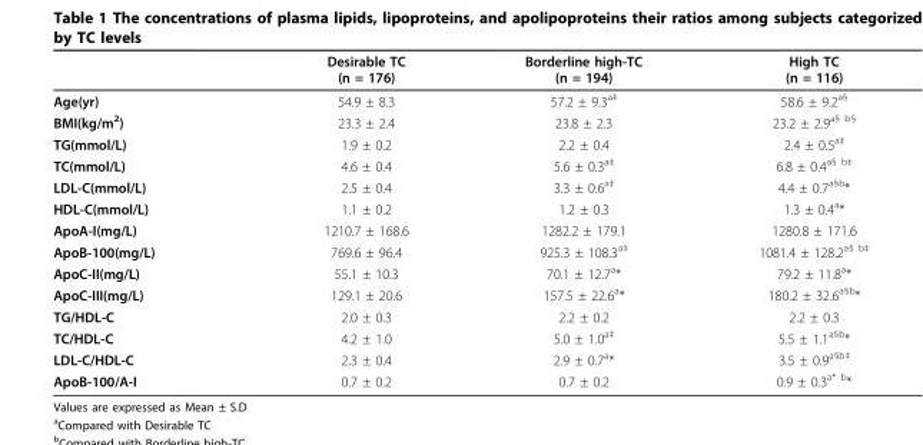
<table><thead><tr><td></td><td>Desirable TC (n = 176)</td><td>Borderline high-TC (n = 194)</td><td>High TC (n = 116)</td></tr></thead><tbody><tr><td>Age(yr)</td><td>54.9 ± 8.3</td><td>57.2 ± 9.3<sup>a‡</sup></td><td>58.6 ± 9.2<sup>a§</sup></td></tr><tr><td>BMI(kg/m<sup>2</sup>)</td><td>23.3 ± 2.4</td><td>23.8 ± 2.3</td><td>23.2 ± 2.9<sup>a§ b§</sup></td></tr><tr><td>TG(mmol/L)</td><td>1.9 ± 0.2</td><td>2.2 ± 0.4</td><td>2.4 ± 0.5<sup>a‡</sup></td></tr><tr><td>TC(mmol/L)</td><td>4.6 ± 0.4</td><td>5.6 ± 0.3<sup>a‡</sup></td><td>6.8 ± 0.4<sup>a§ b‡</sup></td></tr><tr><td>LDL-C(mmol/L)</td><td>2.5 ± 0.4</td><td>3.3 ± 0.6<sup>a‡</sup></td><td>4.4 ± 0.7<sup>a§b</sup>*</td></tr><tr><td>HDL-C(mmol/L)</td><td>1.1 ± 0.2</td><td>1.2 ± 0.3</td><td>1.3 ± 0.4<sup>a</sup>*</td></tr><tr><td>ApoA-I(mg/L)</td><td>1210.7 ± 168.6</td><td>1282.2 ± 179.1</td><td>1280.8 ± 171.6</td></tr><tr><td>ApoB-100(mg/L)</td><td>769.6 ± 96.4</td><td>925.3 ± 108.3<sup>a‡</sup></td><td>1081.4 ± 128.2<sup>a§ b‡</sup></td></tr><tr><td>ApoC-II(mg/L)</td><td>55.1 ± 10.3</td><td>70.1 ± 12.7<sup>a</sup>*</td><td>79.2 ± 11.8<sup>a</sup>*</td></tr><tr><td>ApoC-III(mg/L)</td><td>129.1 ± 20.6</td><td>157.5 ± 22.6<sup>a</sup>*</td><td>180.2 ± 32.6<sup>a§b</sup>*</td></tr><tr><td>TG/HDL-C</td><td>2.0 ± 0.3</td><td>2.2 ± 0.2</td><td>2.2 ± 0.3</td></tr><tr><td>TC/HDL-C</td><td>4.2 ± 1.0</td><td>5.0 ± 1.0<sup>a‡</sup></td><td>5.5 ± 1.1<sup>a§b</sup>*</td></tr><tr><td>LDL-C/HDL-C</td><td>2.3 ± 0.4</td><td>2.9 ± 0.7<sup>a</sup>*</td><td>3.5 ± 0.9<sup>a§b‡</sup></td></tr><tr><td>ApoB-100/A-I</td><td>0.7 ± 0.2</td><td>0.7 ± 0.2</td><td>0.9 ± 0.3<sup>a* b</sup>*</td></tr></tbody></table>